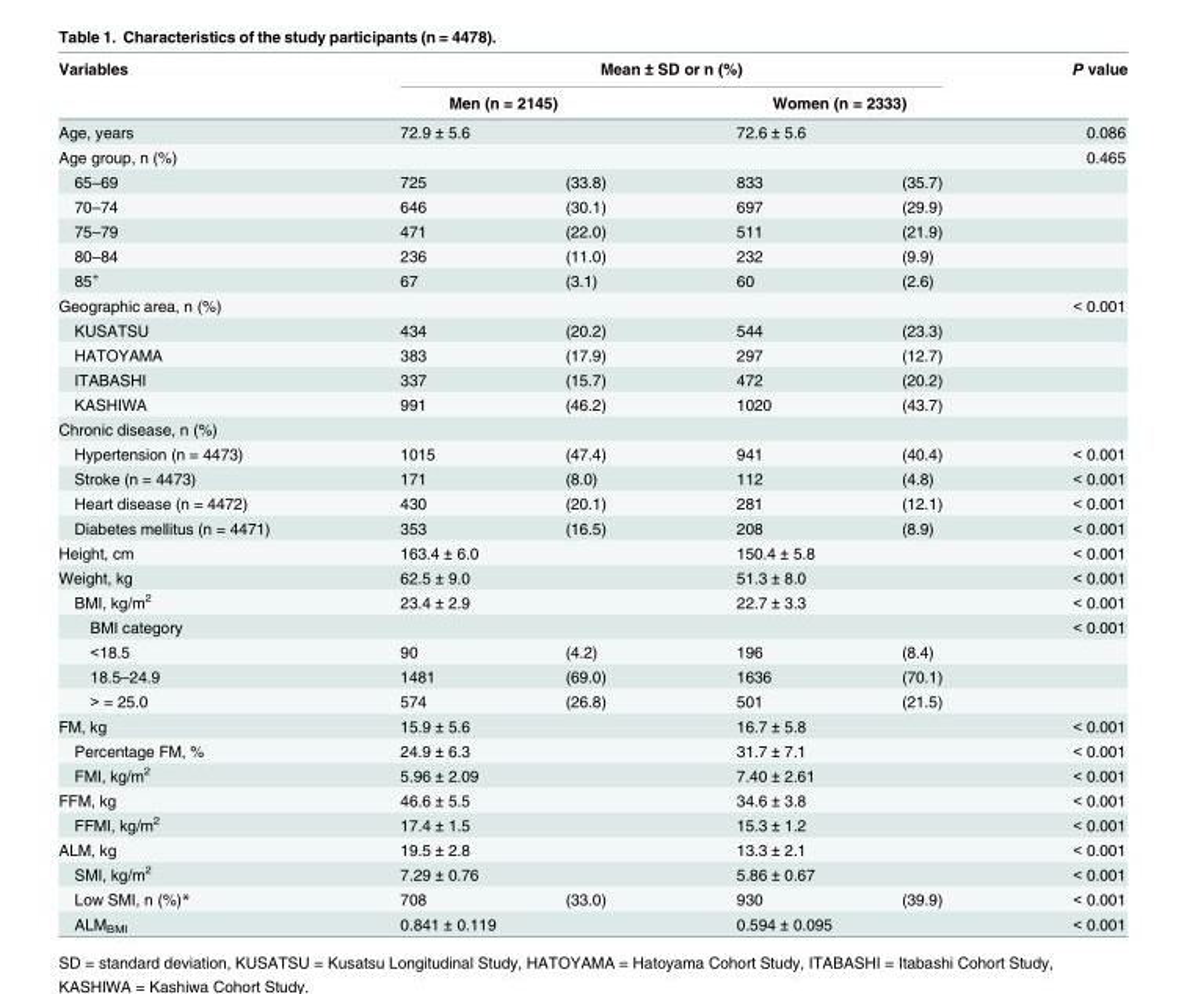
<table><thead><tr><td rowspan="5">Variables Age, years Age group, n (%) 65–69</td><td colspan="4">Mean ± SD or n (%)</td><td rowspan="5">P value 0.086 0.465</td></tr><tr><td rowspan="3" colspan="2">Men (n = 2145) 72.9 ± 5.6</td><td rowspan="3" colspan="2">Women (n = 2333) 72.6 ± 5.6</td></tr><tr></tr><tr></tr><tr><td>725</td><td>(33.8)</td><td>833</td><td>(35.7)</td></tr></thead><tbody><tr><td>70–74</td><td>646</td><td>(30.1)</td><td>697</td><td>(29.9)</td><td></td></tr><tr><td>75–79</td><td>471</td><td>(22.0)</td><td>511</td><td>(21.9)</td><td></td></tr><tr><td>80–84</td><td>236</td><td>(11.0)</td><td>232</td><td>(9.9)</td><td></td></tr><tr><td>85<sup>+</sup></td><td>67</td><td>(3.1)</td><td>60</td><td>(2.6)</td><td></td></tr><tr><td>Geographic area, n (%)</td><td colspan="2"></td><td colspan="2"></td><td>&lt; 0.001</td></tr><tr><td>KUSATSU</td><td>434</td><td>(20.2)</td><td>544</td><td>(23.3)</td><td></td></tr><tr><td>HATOYAMA</td><td>383</td><td>(17.9)</td><td>297</td><td>(12.7)</td><td></td></tr><tr><td>ITABASHI</td><td>337</td><td>(15.7)</td><td>472</td><td>(20.2)</td><td></td></tr><tr><td>KASHIWA</td><td>991</td><td>(46.2)</td><td>1020</td><td>(43.7)</td><td></td></tr><tr><td colspan="6">Chronic disease, n (%)</td></tr><tr><td>Hypertension (n = 4473)</td><td>1015</td><td>(47.4)</td><td>941</td><td>(40.4)</td><td>&lt; 0.001</td></tr><tr><td>Stroke (n = 4473)</td><td>171</td><td>(8.0)</td><td>112</td><td>(4.8)</td><td>&lt; 0.001</td></tr><tr><td>Heart disease (n = 4472)</td><td>430</td><td>(20.1)</td><td>281</td><td>(12.1)</td><td>&lt; 0.001</td></tr><tr><td>Diabetes mellitus (n = 4471)</td><td>353</td><td>(16.5)</td><td>208</td><td>(8.9)</td><td>&lt; 0.001</td></tr><tr><td>Height, cm</td><td colspan="2">163.4 ± 6.0</td><td colspan="2">150.4 ± 5.8</td><td>&lt; 0.001</td></tr><tr><td>Weight, kg</td><td colspan="2">62.5 ± 9.0</td><td colspan="2">51.3 ± 8.0</td><td>&lt; 0.001</td></tr><tr><td>BMI, kg/m<sup>2</sup></td><td colspan="2">23.4 ± 2.9</td><td colspan="2">22.7 ± 3.3</td><td>&lt; 0.001</td></tr><tr><td>BMI category</td><td colspan="2"></td><td colspan="2"></td><td>&lt; 0.001</td></tr><tr><td>&lt;18.5</td><td>90</td><td>(4.2)</td><td>196</td><td>(8.4)</td><td></td></tr><tr><td>18.5–24.9</td><td>1481</td><td>(69.0)</td><td>1636</td><td>(70.1)</td><td></td></tr><tr><td>&gt; = 25.0</td><td>574</td><td>(26.8)</td><td>501</td><td>(21.5)</td><td></td></tr><tr><td>FM, kg</td><td colspan="2">15.9 ± 5.6</td><td colspan="2">16.7 ± 5.8</td><td>&lt; 0.001</td></tr><tr><td>Percentage FM, %</td><td colspan="2">24.9 ± 6.3</td><td colspan="2">31.7 ± 7.1</td><td>&lt; 0.001</td></tr><tr><td>FMI, kg/m<sup>2</sup></td><td colspan="2">5.96 ± 2.09</td><td colspan="2">7.40 ± 2.61</td><td>&lt; 0.001</td></tr><tr><td>FFM, kg</td><td colspan="2">46.6 ± 5.5</td><td colspan="2">34.6 ± 3.8</td><td>&lt; 0.001</td></tr><tr><td>FFMI, kg/m<sup>2</sup></td><td colspan="2">17.4 ± 1.5</td><td colspan="2">15.3 ± 1.2</td><td>&lt; 0.001</td></tr><tr><td>ALM, kg</td><td colspan="2">19.5 ± 2.8</td><td colspan="2">13.3 ± 2.1</td><td>&lt; 0.001</td></tr><tr><td>SMI, kg/m<sup>2</sup></td><td colspan="2">7.29 ± 0.76</td><td colspan="2">5.86 ± 0.67</td><td>&lt; 0.001</td></tr><tr><td>Low SMI, n (%)*</td><td>708</td><td>(33.0)</td><td>930</td><td>(39.9)</td><td>&lt; 0.001</td></tr><tr><td>ALM<sub>BMI</sub></td><td colspan="2">0.841 ± 0.119</td><td colspan="2">0.594 ± 0.095</td><td>&lt; 0.001</td></tr></tbody></table>